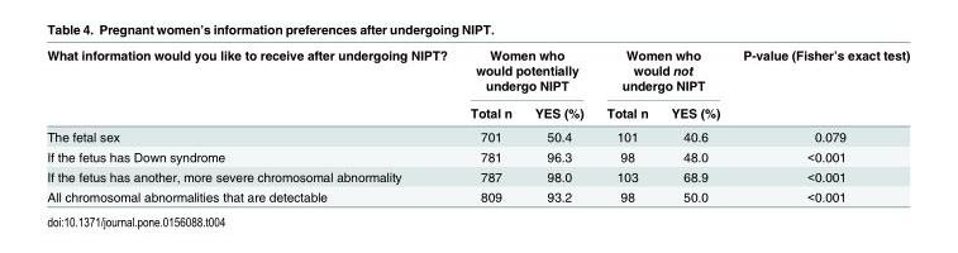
<table><thead><tr><td rowspan="2">What information would you like to receive after undergoing NIPT?</td><td colspan="2">Women who would potentially undergo NIPT</td><td colspan="2">Women who would not undergo NIPT</td><td rowspan="2">P-value (Fisher’s exact test)</td></tr><tr><td>Total n</td><td>YES (%)</td><td>Total n</td><td>YES (%)</td></tr></thead><tbody><tr><td>The fetal sex</td><td>701</td><td>50.4</td><td>101</td><td>40.6</td><td>0.079</td></tr><tr><td>If the fetus has Down syndrome</td><td>781</td><td>96.3</td><td>98</td><td>48.0</td><td>&lt;0.001</td></tr><tr><td>If the fetus has another, more severe chromosomal abnormality</td><td>787</td><td>98.0</td><td>103</td><td>68.9</td><td>&lt;0.001</td></tr><tr><td>All chromosomal abnormalities that are detectable</td><td>809</td><td>93.2</td><td>98</td><td>50.0</td><td>&lt;0.001</td></tr></tbody></table>